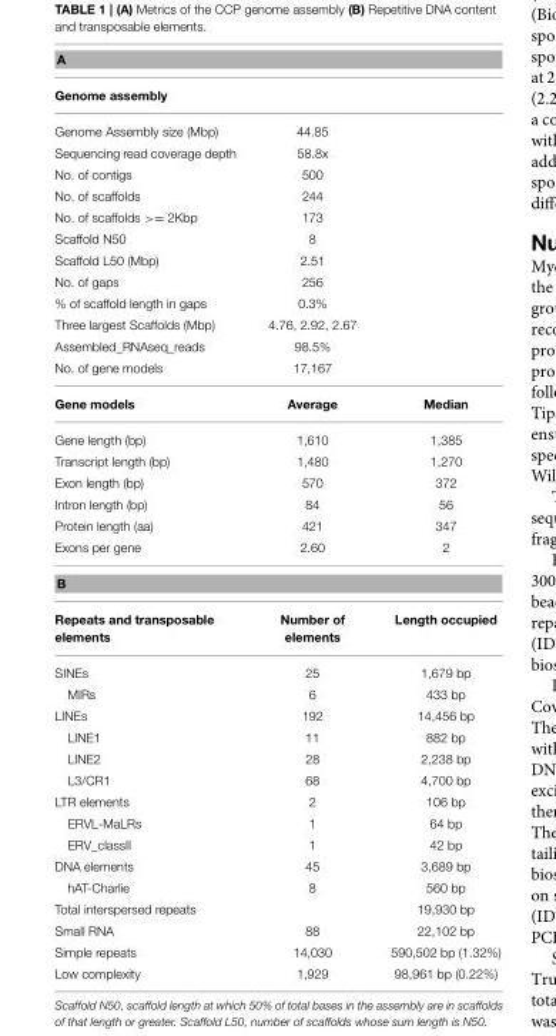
<table><thead><tr><td rowspan="2" colspan="3">A Genome assembly</td></tr><tr></tr><tr><td>Genome Assembly size (Mbp)</td><td>44.85</td><td></td></tr></thead><tbody><tr><td>Sequencing read coverage depth</td><td>58.8x</td><td></td></tr><tr><td>No. of contigs</td><td>500</td><td></td></tr><tr><td>No. of scaffolds</td><td>244</td><td></td></tr><tr><td>No. of scaffolds &gt;= 2Kbp</td><td>173</td><td></td></tr><tr><td>Scaffold N50</td><td>8</td><td></td></tr><tr><td>Scaffold L50 (Mbp)</td><td>2.51</td><td></td></tr><tr><td>No. of gaps</td><td>256</td><td></td></tr><tr><td>% of scaffold length in gaps</td><td>0.3%</td><td></td></tr><tr><td>Three largest Scaffolds (Mbp)</td><td>4.76, 2.92, 2.67</td><td></td></tr><tr><td>Assembled_RNAseq_reads</td><td>98.5%</td><td></td></tr><tr><td>No. of gene models</td><td>17,167</td><td></td></tr><tr><td>Gene models</td><td>Average</td><td>Median</td></tr><tr><td>Gene length (bp)</td><td>1,610</td><td>1,385</td></tr><tr><td>Transcript length (bp)</td><td>1,480</td><td>1,270</td></tr><tr><td>Exon length (bp)</td><td>570</td><td>372</td></tr><tr><td>Intron length (bp)</td><td>84</td><td>56</td></tr><tr><td>Protein length (aa)</td><td>421</td><td>347</td></tr><tr><td>Exons per gene</td><td>2.60</td><td>2</td></tr><tr><td colspan="3">B</td></tr><tr><td>Repeats and transposable elements</td><td>Number of elements</td><td>Length occupied</td></tr><tr><td>SINEs</td><td>25</td><td>1,679 bp</td></tr><tr><td>MIRs</td><td>6</td><td>433 bp</td></tr><tr><td>LINEs</td><td>192</td><td>14,456 bp</td></tr><tr><td>LINE1</td><td>11</td><td>882 bp</td></tr><tr><td>LINE2</td><td>28</td><td>2,238 bp</td></tr><tr><td>L3/CR1</td><td>68</td><td>4,700 bp</td></tr><tr><td>LTR elements</td><td>2</td><td>106 bp</td></tr><tr><td>ERVL-MaLRs</td><td>1</td><td>64 bp</td></tr><tr><td>ERV_classII</td><td>1</td><td>42 bp</td></tr><tr><td>DNA elements</td><td>45</td><td>3,689 bp</td></tr><tr><td>hAT-Charlie</td><td>8</td><td>560 bp</td></tr><tr><td>Total interspersed repeats</td><td></td><td>19,930 bp</td></tr><tr><td>Small RNA</td><td>88</td><td>22,102 bp</td></tr><tr><td>Simple repeats</td><td>14,030</td><td>590,502 bp (1.32%)</td></tr><tr><td>Low complexity</td><td>1,929</td><td>98,961 bp (0.22%)</td></tr></tbody></table>